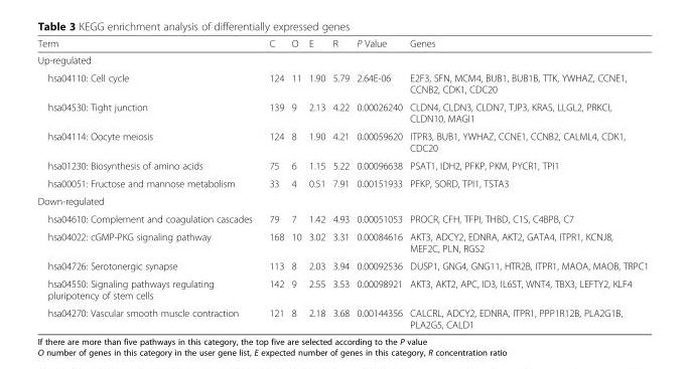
<table><thead><tr><td>Term</td><td>C</td><td>O</td><td>E</td><td>R</td><td>P Value</td><td>Genes</td></tr></thead><tbody><tr><td colspan="7">Up-regulated</td></tr><tr><td>hsa04110: Cell cycle</td><td>124</td><td>11</td><td>1.90</td><td>5.79</td><td>2.64E-06</td><td>E2F3, SFN, MCM4, BUB1, BUB1B, TTK, YWHAZ, CCNE1, CCNB2, CDK1, CDC20</td></tr><tr><td>hsa04530: Tight junction</td><td>139</td><td>9</td><td>2.13</td><td>4.22</td><td>0.00026240</td><td>CLDN4, CLDN3, CLDN7, TJP3, KRAS, LLGL2, PRKCI, CLDN10, MAGI1</td></tr><tr><td>hsa04114: Oocyte meiosis</td><td>124</td><td>8</td><td>1.90</td><td>4.21</td><td>0.00059620</td><td>ITPR3, BUB1, YWHAZ, CCNE1, CCNB2, CALML4, CDK1, CDC20</td></tr><tr><td>hsa01230: Biosynthesis of amino acids</td><td>75</td><td>6</td><td>1.15</td><td>5.22</td><td>0.00096638</td><td>PSAT1, IDH2, PFKP, PKM, PYCR1, TPI1</td></tr><tr><td>hsa00051: Fructose and mannose metabolism</td><td>33</td><td>4</td><td>0.51</td><td>7.91</td><td>0.00151933</td><td>PFKP, SORD, TPI1, TSTA3</td></tr><tr><td colspan="7">Down-regulated</td></tr><tr><td>hsa04610: Complement and coagulation cascades</td><td>79</td><td>7</td><td>1.42</td><td>4.93</td><td>0.00051053</td><td>PROCR, CFH, TFPI, THBD, C1S, C4BPB, C7</td></tr><tr><td>hsa04022: cGMP-PKG signaling pathway</td><td>168</td><td>10</td><td>3.02</td><td>3.31</td><td>0.00084616</td><td>AKT3, ADCY2, EDNRA, AKT2, GATA4, ITPR1, KCNJ8, MEF2C, PLN, RGS2</td></tr><tr><td>hsa04726: Serotonergic synapse</td><td>113</td><td>8</td><td>2.03</td><td>3.94</td><td>0.00092536</td><td>DUSP1, GNG4, GNG11, HTR2B, ITPR1, MAOA, MAOB, TRPC1</td></tr><tr><td>hsa04550: Signaling pathways regulating pluripotency of stem cells</td><td>142</td><td>9</td><td>2.55</td><td>3.53</td><td>0.00098921</td><td>AKT3, AKT2, APC, ID3, IL6ST, WNT4, TBX3, LEFTY2, KLF4</td></tr><tr><td>hsa04270: Vascular smooth muscle contraction</td><td>121</td><td>8</td><td>2.18</td><td>3.68</td><td>0.00144356</td><td>CALCRL, ADCY2, EDNRA, ITPR1, PPP1R12B, PLA2G1B, PLA2G5, CALD1</td></tr></tbody></table>